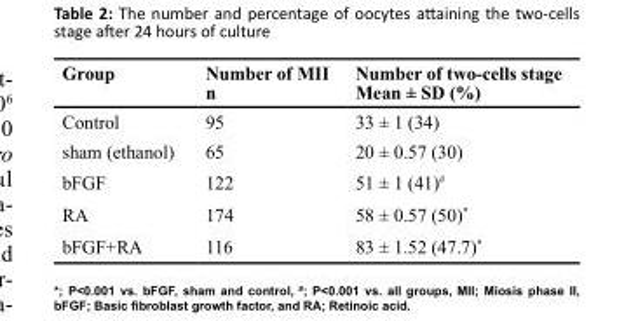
<table><thead><tr><td>Group</td><td>Number of MII n</td><td>Number of two-cells stage Mean ± SD (%)</td></tr></thead><tbody><tr><td>Control</td><td>95</td><td>33 ± 1 (34)</td></tr><tr><td>sham (ethanol)</td><td>65</td><td>20 ± 0.57 (30)</td></tr><tr><td>bFGF</td><td>122</td><td>51 ± 1 (41)<sup>#</sup></td></tr><tr><td>RA</td><td>174</td><td>58 ± 0.57 (50)*</td></tr><tr><td>bFGF+RA</td><td>116</td><td>83 ± 1.52 (47.7)*</td></tr></tbody></table>